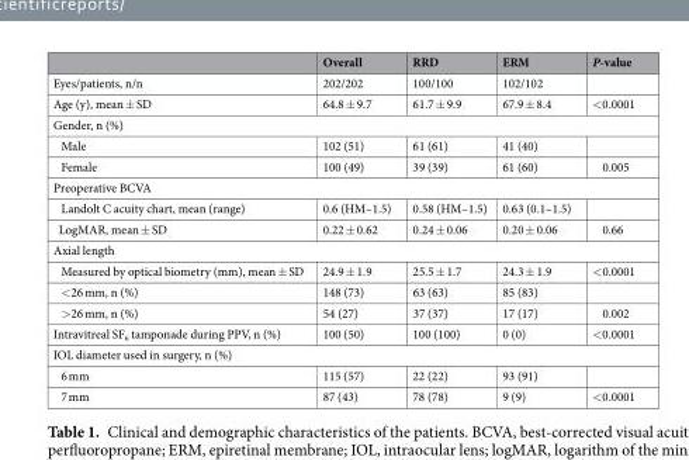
<table><thead><tr><td></td><td>Overall</td><td>RRD</td><td>ERM</td><td>P-value</td></tr></thead><tbody><tr><td>Eyes/patients, n/n</td><td>202/202</td><td>100/100</td><td>102/102</td><td></td></tr><tr><td>Age (y), mean ± SD</td><td>64.8 ± 9.7</td><td>61.7 ± 9.9</td><td>67.9 ± 8.4</td><td>&lt;0.0001</td></tr><tr><td colspan="5">Gender, n (%)</td></tr><tr><td>Male</td><td>102 (51)</td><td>61 (61)</td><td>41 (40)</td><td></td></tr><tr><td>Female</td><td>100 (49)</td><td>39 (39)</td><td>61 (60)</td><td>0.005</td></tr><tr><td colspan="5">Preoperative BCVA</td></tr><tr><td>Landolt C acuity chart, mean (range)</td><td>0.6 (HM–1.5)</td><td>0.58 (HM–1.5)</td><td>0.63 (0.1–1.5)</td><td></td></tr><tr><td>LogMAR, mean ± SD</td><td>0.22 ± 0.62</td><td>0.24 ± 0.06</td><td>0.20 ± 0.06</td><td>0.66</td></tr><tr><td colspan="5">Axial length</td></tr><tr><td>Measured by optical biometry (mm), mean ± SD</td><td>24.9 ± 1.9</td><td>25.5 ± 1.7</td><td>24.3 ± 1.9</td><td>&lt;0.0001</td></tr><tr><td>&lt;26 mm, n (%)</td><td>148 (73)</td><td>63 (63)</td><td>85 (83)</td><td></td></tr><tr><td>&gt;26 mm, n (%)</td><td>54 (27)</td><td>37 (37)</td><td>17 (17)</td><td>0.002</td></tr><tr><td>Intravitreal SF<sub>6</sub> tamponade during PPV, n (%)</td><td>100 (50)</td><td>100 (100)</td><td>0 (0)</td><td>&lt;0.0001</td></tr><tr><td colspan="5">IOL diameter used in surgery, n (%)</td></tr><tr><td>6 mm</td><td>115 (57)</td><td>22 (22)</td><td>93 (91)</td><td></td></tr><tr><td>7 mm</td><td>87 (43)</td><td>78 (78)</td><td>9 (9)</td><td>&lt;0.0001</td></tr></tbody></table>